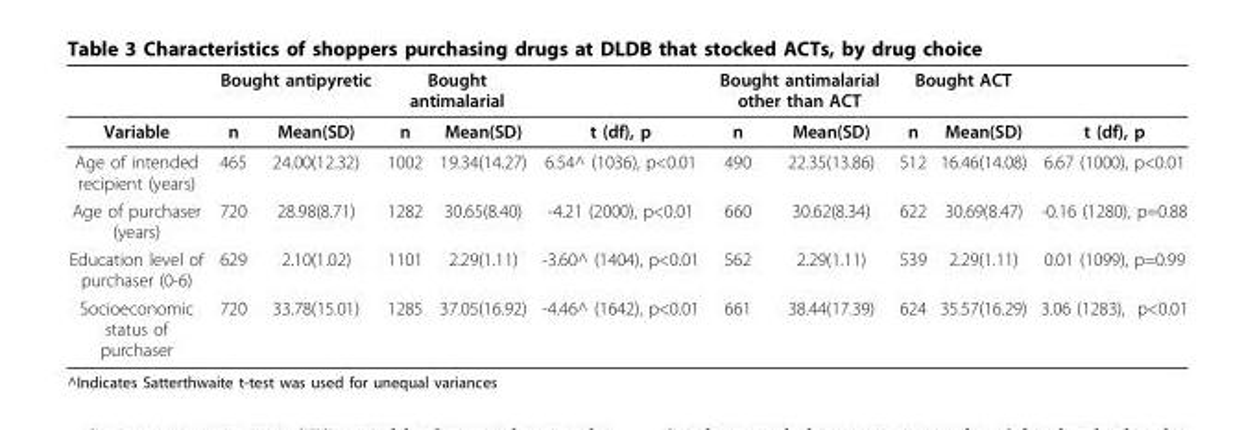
<table><thead><tr><td rowspan="2">Variable</td><td colspan="2">Bought antipyretic</td><td colspan="2">Bought antimalarial</td><td rowspan="2">t (df), p</td><td colspan="2">Bought antimalarial other than ACT</td><td colspan="2">Bought ACT</td><td rowspan="2">t (df), p</td></tr><tr><td>n</td><td>Mean(SD)</td><td>n</td><td>Mean(SD)</td><td>n</td><td>Mean(SD)</td><td>n</td><td>Mean(SD)</td></tr></thead><tbody><tr><td>Age of intended recipient (years)</td><td>465</td><td>24.00(12.32)</td><td>1002</td><td>19.34(14.27)</td><td>6.54^ (1036), p&lt;0.01</td><td>490</td><td>22.35(13.86)</td><td>512</td><td>16.46(14.08)</td><td>6.67 (1000), p&lt;0.01</td></tr><tr><td>Age of purchaser (years)</td><td>720</td><td>28.98(8.71)</td><td>1282</td><td>30.65(8.40)</td><td>-4.21 (2000), p&lt;0.01</td><td>660</td><td>30.62(8.34)</td><td>622</td><td>30.69(8.47)</td><td>-0.16 (1280), p=0.88</td></tr><tr><td>Education level of purchaser (0-6)</td><td>629</td><td>2.10(1.02)</td><td>1101</td><td>2.29(1.11)</td><td>-3.60^ (1404), p&lt;0.01</td><td>562</td><td>2.29(1.11)</td><td>539</td><td>2.29(1.11)</td><td>0.01 (1099), p=0.99</td></tr><tr><td>Socioeconomic status of purchaser</td><td>720</td><td>33.78(15.01)</td><td>1285</td><td>37.05(16.92)</td><td>-4.46^ (1642), p&lt;0.01</td><td>661</td><td>38.44(17.39)</td><td>624</td><td>35.57(16.29)</td><td>3.06 (1283), p&lt;0.01</td></tr></tbody></table>